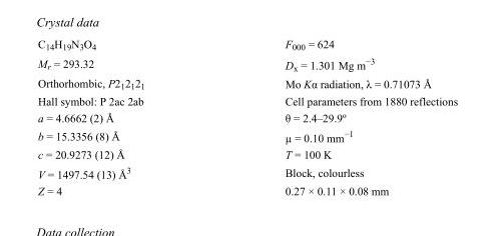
<table><tbody><tr><td>C<sub>14</sub>H<sub>19</sub>N<sub>3</sub>O<sub>4</sub></td><td>F000 = 624</td></tr><tr><td>M<sub>r</sub> = 293.32</td><td>D<sub>x</sub> = 1.301 Mg m<sup>−3</sup></td></tr><tr><td>Orthorhombic, P2<sub>1</sub>2<sub>1</sub>2<sub>1</sub></td><td>Mo Kα radiation, λ = 0.71073 Å</td></tr><tr><td>Hall symbol: P 2ac 2ab</td><td>Cell parameters from 1880 reflections</td></tr><tr><td>a = 4.6662 (2) Å</td><td>θ = 2.4–29.9º</td></tr><tr><td>b = 15.3356 (8) Å</td><td>µ = 0.10 mm<sup>−1</sup></td></tr><tr><td>c = 20.9273 (12) Å</td><td>T = 100 K</td></tr><tr><td>V = 1497.54 (13) Å<sup>3</sup></td><td>Block, colourless</td></tr><tr><td>Z = 4</td><td>0.27 × 0.11 × 0.08 mm</td></tr></tbody></table>